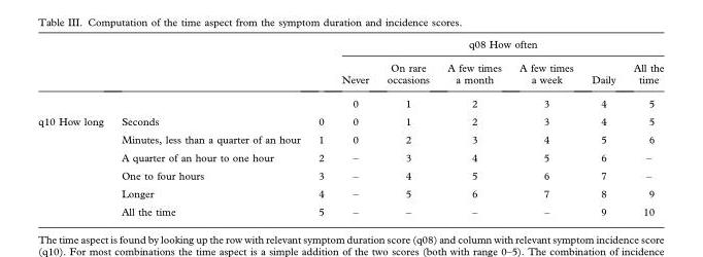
<table><thead><tr><td rowspan="2"></td><td rowspan="2"></td><td rowspan="2"></td><td colspan="6">q08 How often</td></tr><tr><td>Never</td><td>On rare occasions</td><td>A few times a month</td><td>A few times a week</td><td>Daily</td><td>All the time</td></tr></thead><tbody><tr><td></td><td></td><td></td><td>0</td><td>1</td><td>2</td><td>3</td><td>4</td><td>5</td></tr><tr><td rowspan="6">q10 How long</td><td>Seconds</td><td>0</td><td>0</td><td>1</td><td>2</td><td>3</td><td>4</td><td>5</td></tr><tr><td>Minutes, less than a quarter of an hour</td><td>1</td><td>0</td><td>2</td><td>3</td><td>4</td><td>5</td><td>6</td></tr><tr><td>A quarter of an hour to one hour</td><td>2</td><td>–</td><td>3</td><td>4</td><td>5</td><td>6</td><td>–</td></tr><tr><td>One to four hours</td><td>3</td><td>–</td><td>4</td><td>5</td><td>6</td><td>7</td><td>–</td></tr><tr><td>Longer</td><td>4</td><td>–</td><td>5</td><td>6</td><td>7</td><td>8</td><td>9</td></tr><tr><td>All the time</td><td>5</td><td>–</td><td>–</td><td>–</td><td>–</td><td>9</td><td>10</td></tr></tbody></table>